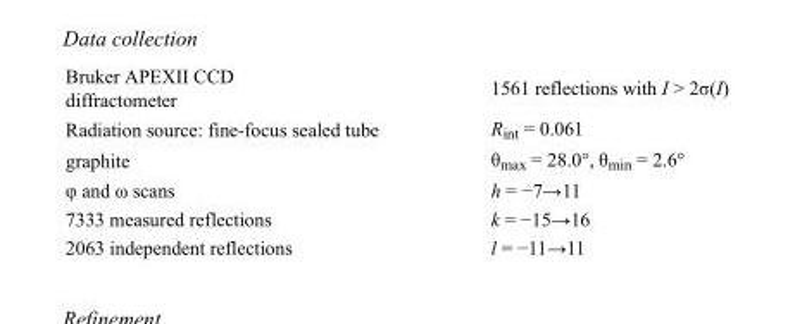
<table><tbody><tr><td>Bruker APEXII CCD diffractometer</td><td>1561 reflections with I &gt; 2σ(I)</td></tr><tr><td>Radiation source: fine-focus sealed tube</td><td>R<sub>int</sub> = 0.061</td></tr><tr><td>graphite</td><td>θ<sub>max</sub> = 28.0°, θ<sub>min</sub> = 2.6°</td></tr><tr><td>φ and ω scans</td><td>h = −7→11</td></tr><tr><td>7333 measured reflections</td><td>k = −15→16</td></tr><tr><td>2063 independent reflections</td><td>l = −11→11</td></tr></tbody></table>